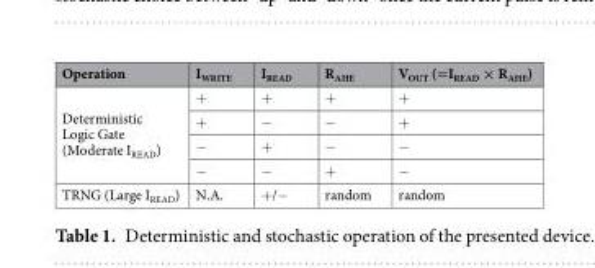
<table><thead><tr><td>Operation</td><td>I<sub>WRITE</sub></td><td>I<sub>READ</sub></td><td>R<sub>AHE</sub></td><td>V<sub>OUT</sub> (=I<sub>READ</sub> × R<sub>AHE</sub>)</td></tr></thead><tbody><tr><td rowspan="4">Deterministic Logic Gate (Moderate I<sub>READ</sub>)</td><td>+</td><td>+</td><td>+</td><td>+</td></tr><tr><td>+</td><td>−</td><td>−</td><td>+</td></tr><tr><td>−</td><td>+</td><td>−</td><td>−</td></tr><tr><td>−</td><td>−</td><td>+</td><td>−</td></tr><tr><td>TRNG (Large I<sub>READ</sub>)</td><td>N.A.</td><td>+/−</td><td>random</td><td>random</td></tr></tbody></table>